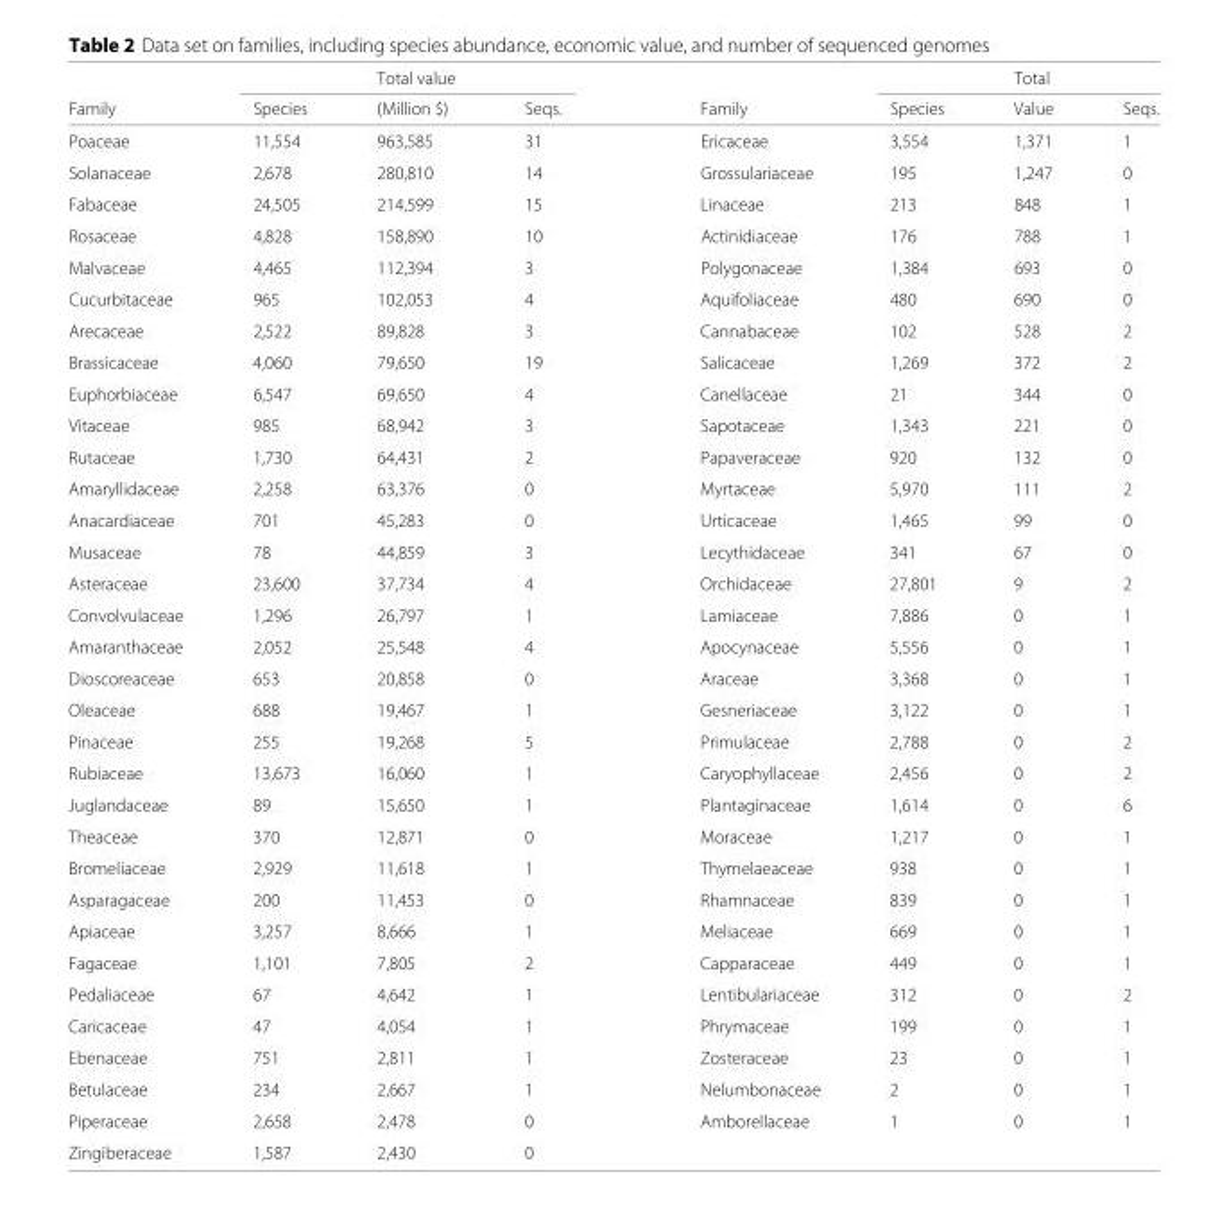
<table><thead><tr><td rowspan="2">Family</td><td rowspan="2">Species</td><td rowspan="2">Total value (Million $)</td><td rowspan="2">Seqs.</td><td rowspan="2">Family</td><td rowspan="2">Species</td><td rowspan="2">Total Value</td><td rowspan="2">Seqs.</td></tr><tr></tr></thead><tbody><tr><td>Poaceae</td><td>11,554</td><td>963,585</td><td>31</td><td>Ericaceae</td><td>3,554</td><td>1,371</td><td>1</td></tr><tr><td>Solanaceae</td><td>2,678</td><td>280,810</td><td>14</td><td>Grossulariaceae</td><td>195</td><td>1,247</td><td>0</td></tr><tr><td>Fabaceae</td><td>24,505</td><td>214,599</td><td>15</td><td>Linaceae</td><td>213</td><td>848</td><td>1</td></tr><tr><td>Rosaceae</td><td>4,828</td><td>158,890</td><td>10</td><td>Actinidiaceae</td><td>176</td><td>788</td><td>1</td></tr><tr><td>Malvaceae</td><td>4,465</td><td>112,394</td><td>3</td><td>Polygonaceae</td><td>1,384</td><td>693</td><td>0</td></tr><tr><td>Cucurbitaceae</td><td>965</td><td>102,053</td><td>4</td><td>Aquifoliaceae</td><td>480</td><td>690</td><td>0</td></tr><tr><td>Arecaceae</td><td>2,522</td><td>89,828</td><td>3</td><td>Cannabaceae</td><td>102</td><td>528</td><td>2</td></tr><tr><td>Brassicaceae</td><td>4,060</td><td>79,650</td><td>19</td><td>Salicaceae</td><td>1,269</td><td>372</td><td>2</td></tr><tr><td>Euphorbiaceae</td><td>6,547</td><td>69,650</td><td>4</td><td>Canellaceae</td><td>21</td><td>344</td><td>0</td></tr><tr><td>Vitaceae</td><td>985</td><td>68,942</td><td>3</td><td>Sapotaceae</td><td>1,343</td><td>221</td><td>0</td></tr><tr><td>Rutaceae</td><td>1,730</td><td>64,431</td><td>2</td><td>Papaveraceae</td><td>920</td><td>132</td><td>0</td></tr><tr><td>Amaryllidaceae</td><td>2,258</td><td>63,376</td><td>0</td><td>Myrtaceae</td><td>5,970</td><td>111</td><td>2</td></tr><tr><td>Anacardiaceae</td><td>701</td><td>45,283</td><td>0</td><td>Urticaceae</td><td>1,465</td><td>99</td><td>0</td></tr><tr><td>Musaceae</td><td>78</td><td>44,859</td><td>3</td><td>Lecythidaceae</td><td>341</td><td>67</td><td>0</td></tr><tr><td>Asteraceae</td><td>23,600</td><td>37,734</td><td>4</td><td>Orchidaceae</td><td>27,801</td><td>9</td><td>2</td></tr><tr><td>Convolvulaceae</td><td>1,296</td><td>26,797</td><td>1</td><td>Lamiaceae</td><td>7,886</td><td>0</td><td>1</td></tr><tr><td>Amaranthaceae</td><td>2,052</td><td>25,548</td><td>4</td><td>Apocynaceae</td><td>5,556</td><td>0</td><td>1</td></tr><tr><td>Dioscoreaceae</td><td>653</td><td>20,858</td><td>0</td><td>Araceae</td><td>3,368</td><td>0</td><td>1</td></tr><tr><td>Oleaceae</td><td>688</td><td>19,467</td><td>1</td><td>Gesneriaceae</td><td>3,122</td><td>0</td><td>1</td></tr><tr><td>Pinaceae</td><td>255</td><td>19,268</td><td>5</td><td>Primulaceae</td><td>2,788</td><td>0</td><td>2</td></tr><tr><td>Rubiaceae</td><td>13,673</td><td>16,060</td><td>1</td><td>Caryophyllaceae</td><td>2,456</td><td>0</td><td>2</td></tr><tr><td>Juglandaceae</td><td>89</td><td>15,650</td><td>1</td><td>Plantaginaceae</td><td>1,614</td><td>0</td><td>6</td></tr><tr><td>Theaceae</td><td>370</td><td>12,871</td><td>0</td><td>Moraceae</td><td>1,217</td><td>0</td><td>1</td></tr><tr><td>Bromeliaceae</td><td>2,929</td><td>11,618</td><td>1</td><td>Thymelaeaceae</td><td>938</td><td>0</td><td>1</td></tr><tr><td>Asparagaceae</td><td>200</td><td>11,453</td><td>0</td><td>Rhamnaceae</td><td>839</td><td>0</td><td>1</td></tr><tr><td>Apiaceae</td><td>3,257</td><td>8,666</td><td>1</td><td>Meliaceae</td><td>669</td><td>0</td><td>1</td></tr><tr><td>Fagaceae</td><td>1,101</td><td>7,805</td><td>2</td><td>Capparaceae</td><td>449</td><td>0</td><td>1</td></tr><tr><td>Pedaliaceae</td><td>67</td><td>4,642</td><td>1</td><td>Lentibulariaceae</td><td>312</td><td>0</td><td>2</td></tr><tr><td>Caricaceae</td><td>47</td><td>4,054</td><td>1</td><td>Phrymaceae</td><td>199</td><td>0</td><td>1</td></tr><tr><td>Ebenaceae</td><td>751</td><td>2,811</td><td>1</td><td>Zosteraceae</td><td>23</td><td>0</td><td>1</td></tr><tr><td>Betulaceae</td><td>234</td><td>2,667</td><td>1</td><td>Nelumbonaceae</td><td>2</td><td>0</td><td>1</td></tr><tr><td>Piperaceae</td><td>2,658</td><td>2,478</td><td>0</td><td>Amborellaceae</td><td>1</td><td>0</td><td>1</td></tr><tr><td>Zingiberaceae</td><td>1,587</td><td>2,430</td><td>0</td><td></td><td></td><td></td><td></td></tr></tbody></table>